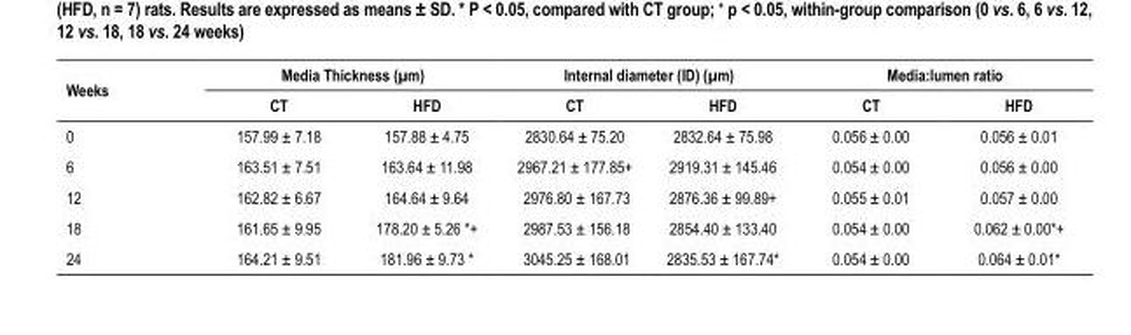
<table><thead><tr><td rowspan="2">Weeks</td><td colspan="2">Media Thickness (µm)</td><td colspan="2">Internal diameter (ID) (µm)</td><td colspan="2">Media:lumen ratio</td></tr><tr><td>CT</td><td>HFD</td><td>CT</td><td>HFD</td><td>CT</td><td>HFD</td></tr></thead><tbody><tr><td>0</td><td>157.99 ± 7.18</td><td>157.88 ± 4.75</td><td>2830.64 ± 75.20</td><td>2832.64 ± 75.98</td><td>0.056 ± 0.00</td><td>0.056 ± 0.01</td></tr><tr><td>6</td><td>163.51 ± 7.51</td><td>163.64 ± 11.98</td><td>2967.21 ± 177.85+</td><td>2919.31 ± 145.46</td><td>0.054 ± 0.00</td><td>0.056 ± 0.00</td></tr><tr><td>12</td><td>162.82 ± 6.67</td><td>164.64 ± 9.64</td><td>2976.80 ± 167.73</td><td>2876.36 ± 99.89+</td><td>0.055 ± 0.01</td><td>0.057 ± 0.00</td></tr><tr><td>18</td><td>161.65 ± 9.95</td><td>178.20 ± 5.26 *+</td><td>2987.53 ± 156.18</td><td>2854.40 ± 133.40</td><td>0.054 ± 0.00</td><td>0.062 ± 0.00*+</td></tr><tr><td>24</td><td>164.21 ± 9.51</td><td>181.96 ± 9.73 *</td><td>3045.25 ± 168.01</td><td>2835.53 ± 167.74*</td><td>0.054 ± 0.00</td><td>0.064 ± 0.01*</td></tr></tbody></table>